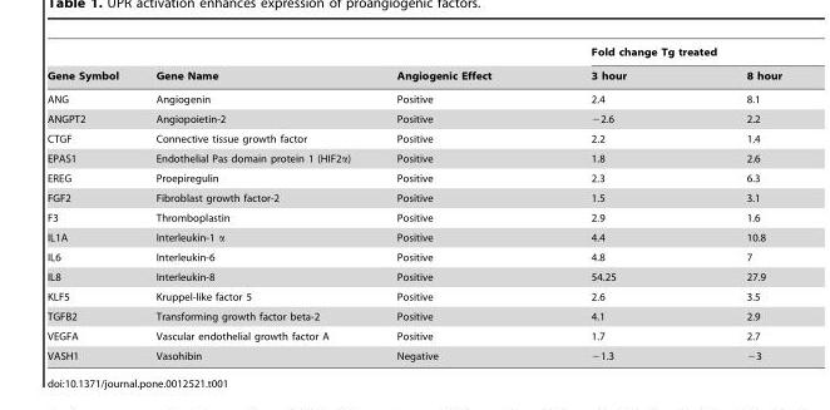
<table><thead><tr><td rowspan="2">Gene Symbol</td><td rowspan="2">Gene Name</td><td rowspan="2">Angiogenic Effect</td><td colspan="2">Fold change Tg treated</td></tr><tr><td>3 hour</td><td>8 hour</td></tr></thead><tbody><tr><td>ANG</td><td>Angiogenin</td><td>Positive</td><td>2.4</td><td>8.1</td></tr><tr><td>ANGPT2</td><td>Angiopoietin-2</td><td>Positive</td><td>−2.6</td><td>2.2</td></tr><tr><td>CTGF</td><td>Connective tissue growth factor</td><td>Positive</td><td>2.2</td><td>1.4</td></tr><tr><td>EPAS1</td><td>Endothelial Pas domain protein 1 (HIF2α)</td><td>Positive</td><td>1.8</td><td>2.6</td></tr><tr><td>EREG</td><td>Proepiregulin</td><td>Positive</td><td>2.3</td><td>6.3</td></tr><tr><td>FGF2</td><td>Fibroblast growth factor-2</td><td>Positive</td><td>1.5</td><td>3.1</td></tr><tr><td>F3</td><td>Thromboplastin</td><td>Positive</td><td>2.9</td><td>1.6</td></tr><tr><td>IL1A</td><td>Interleukin-1 α</td><td>Positive</td><td>4.4</td><td>10.8</td></tr><tr><td>IL6</td><td>Interleukin-6</td><td>Positive</td><td>4.8</td><td>7</td></tr><tr><td>IL8</td><td>Interleukin-8</td><td>Positive</td><td>54.25</td><td>27.9</td></tr><tr><td>KLF5</td><td>Kruppel-like factor 5</td><td>Positive</td><td>2.6</td><td>3.5</td></tr><tr><td>TGFB2</td><td>Transforming growth factor beta-2</td><td>Positive</td><td>4.1</td><td>2.9</td></tr><tr><td>VEGFA</td><td>Vascular endothelial growth factor A</td><td>Positive</td><td>1.7</td><td>2.7</td></tr><tr><td>VASH1</td><td>Vasohibin</td><td>Negative</td><td>−1.3</td><td>−3</td></tr></tbody></table>